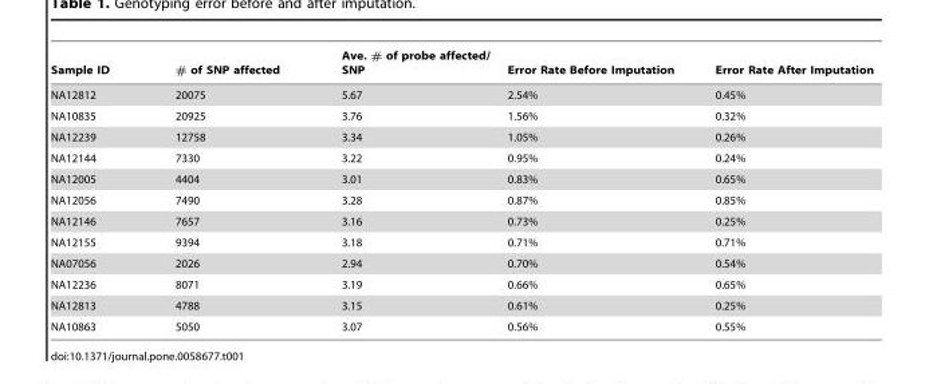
<table><thead><tr><td>Sample ID</td><td># of SNP affected</td><td>Ave. # of probe affected/ SNP</td><td>Error Rate Before Imputation</td><td>Error Rate After Imputation</td></tr></thead><tbody><tr><td>NA12812</td><td>20075</td><td>5.67</td><td>2.54%</td><td>0.45%</td></tr><tr><td>NA10835</td><td>20925</td><td>3.76</td><td>1.56%</td><td>0.32%</td></tr><tr><td>NA12239</td><td>12758</td><td>3.34</td><td>1.05%</td><td>0.26%</td></tr><tr><td>NA12144</td><td>7330</td><td>3.22</td><td>0.95%</td><td>0.24%</td></tr><tr><td>NA12005</td><td>4404</td><td>3.01</td><td>0.83%</td><td>0.65%</td></tr><tr><td>NA12056</td><td>7490</td><td>3.28</td><td>0.87%</td><td>0.85%</td></tr><tr><td>NA12146</td><td>7657</td><td>3.16</td><td>0.73%</td><td>0.25%</td></tr><tr><td>NA12155</td><td>9394</td><td>3.18</td><td>0.71%</td><td>0.71%</td></tr><tr><td>NA07056</td><td>2026</td><td>2.94</td><td>0.70%</td><td>0.54%</td></tr><tr><td>NA12236</td><td>8071</td><td>3.19</td><td>0.66%</td><td>0.65%</td></tr><tr><td>NA12813</td><td>4788</td><td>3.15</td><td>0.61%</td><td>0.25%</td></tr><tr><td>NA10863</td><td>5050</td><td>3.07</td><td>0.56%</td><td>0.55%</td></tr></tbody></table>